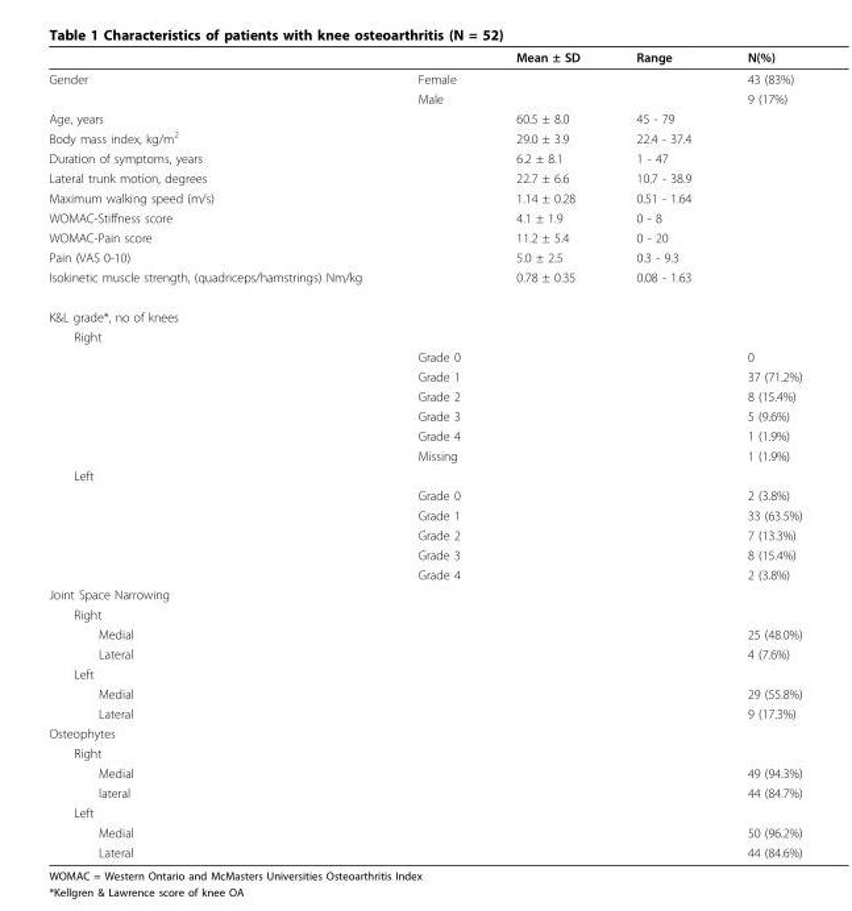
<table><thead><tr><td></td><td></td><td>Mean ± SD</td><td>Range</td><td>N(%)</td></tr></thead><tbody><tr><td rowspan="2">Gender</td><td>Female</td><td></td><td></td><td>43 (83%)</td></tr><tr><td>Male</td><td></td><td></td><td>9 (17%)</td></tr><tr><td>Age, years</td><td></td><td>60.5 ± 8.0</td><td>45 - 79</td><td></td></tr><tr><td>Body mass index, kg/m<sup>2</sup></td><td></td><td>29.0 ± 3.9</td><td>22.4 - 37.4</td><td></td></tr><tr><td>Duration of symptoms, years</td><td></td><td>6.2 ± 8.1</td><td>1 - 47</td><td></td></tr><tr><td>Lateral trunk motion, degrees</td><td></td><td>22.7 ± 6.6</td><td>10.7 - 38.9</td><td></td></tr><tr><td>Maximum walking speed (m/s)</td><td></td><td>1.14 ± 0.28</td><td>0.51 - 1.64</td><td></td></tr><tr><td>WOMAC-Stiffness score</td><td></td><td>4.1 ± 1.9</td><td>0 - 8</td><td></td></tr><tr><td>WOMAC-Pain score</td><td></td><td>11.2 ± 5.4</td><td>0 - 20</td><td></td></tr><tr><td>Pain (VAS 0-10)</td><td></td><td>5.0 ± 2.5</td><td>0.3 - 9.3</td><td></td></tr><tr><td>Isokinetic muscle strength, (quadriceps/hamstrings) Nm/kg</td><td></td><td>0.78 ± 0.35</td><td>0.08 - 1.63</td><td></td></tr><tr><td colspan="5">K&amp;L grade*, no of knees</td></tr><tr><td colspan="5">Right</td></tr><tr><td></td><td>Grade 0</td><td></td><td></td><td>0</td></tr><tr><td></td><td>Grade 1</td><td></td><td></td><td>37 (71.2%)</td></tr><tr><td></td><td>Grade 2</td><td></td><td></td><td>8 (15.4%)</td></tr><tr><td></td><td>Grade 3</td><td></td><td></td><td>5 (9.6%)</td></tr><tr><td></td><td>Grade 4</td><td></td><td></td><td>1 (1.9%)</td></tr><tr><td></td><td>Missing</td><td></td><td></td><td>1 (1.9%)</td></tr><tr><td colspan="5">Left</td></tr><tr><td></td><td>Grade 0</td><td></td><td></td><td>2 (3.8%)</td></tr><tr><td></td><td>Grade 1</td><td></td><td></td><td>33 (63.5%)</td></tr><tr><td></td><td>Grade 2</td><td></td><td></td><td>7 (13.3%)</td></tr><tr><td></td><td>Grade 3</td><td></td><td></td><td>8 (15.4%)</td></tr><tr><td></td><td>Grade 4</td><td></td><td></td><td>2 (3.8%)</td></tr><tr><td colspan="5">Joint Space Narrowing</td></tr><tr><td colspan="5">Right</td></tr><tr><td>Medial</td><td></td><td></td><td></td><td>25 (48.0%)</td></tr><tr><td>Lateral</td><td></td><td></td><td></td><td>4 (7.6%)</td></tr><tr><td colspan="5">Left</td></tr><tr><td>Medial</td><td></td><td></td><td></td><td>29 (55.8%)</td></tr><tr><td>Lateral</td><td></td><td></td><td></td><td>9 (17.3%)</td></tr><tr><td colspan="5">Osteophytes</td></tr><tr><td colspan="5">Right</td></tr><tr><td>Medial</td><td></td><td></td><td></td><td>49 (94.3%)</td></tr><tr><td>lateral</td><td></td><td></td><td></td><td>44 (84.7%)</td></tr><tr><td colspan="5">Left</td></tr><tr><td>Medial</td><td></td><td></td><td></td><td>50 (96.2%)</td></tr><tr><td>Lateral</td><td></td><td></td><td></td><td>44 (84.6%)</td></tr></tbody></table>